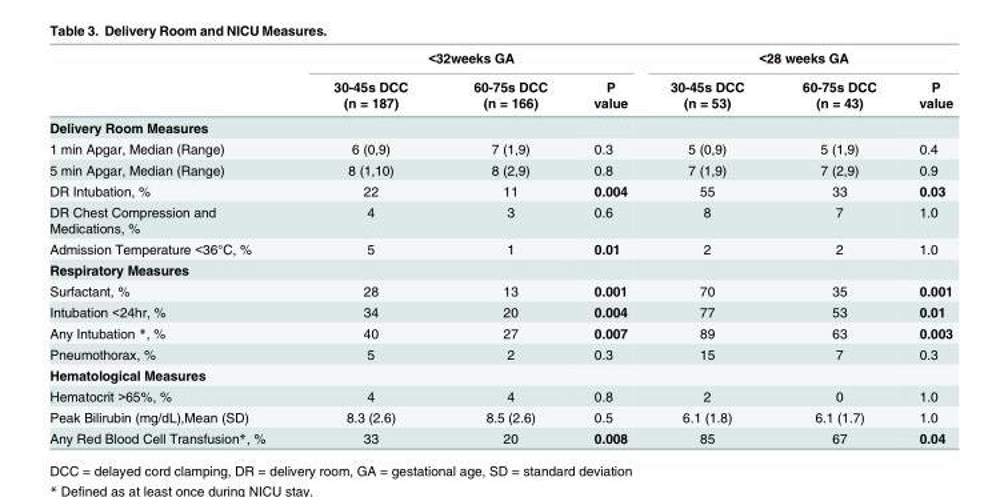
<table><thead><tr><td rowspan="2"></td><td colspan="3">&lt;32weeks GA</td><td colspan="3">&lt;28 weeks GA</td></tr><tr><td>30-45s DCC (n = 187)</td><td>60-75s DCC (n = 166)</td><td>P value</td><td>30-45s DCC (n = 53)</td><td>60-75s DCC (n = 43)</td><td>P value</td></tr></thead><tbody><tr><td colspan="7">Delivery Room Measures</td></tr><tr><td>1 min Apgar, Median (Range)</td><td>6 (0,9)</td><td>7 (1,9)</td><td>0.3</td><td>5 (0,9)</td><td>5 (1,9)</td><td>0.4</td></tr><tr><td>5 min Apgar, Median (Range)</td><td>8 (1,10)</td><td>8 (2,9)</td><td>0.8</td><td>7 (1,9)</td><td>7 (2,9)</td><td>0.9</td></tr><tr><td>DR Intubation, %</td><td>22</td><td>11</td><td>0.004</td><td>55</td><td>33</td><td>0.03</td></tr><tr><td>DR Chest Compression and Medications, %</td><td>4</td><td>3</td><td>0.6</td><td>8</td><td>7</td><td>1.0</td></tr><tr><td>Admission Temperature &lt;36°C, %</td><td>5</td><td>1</td><td>0.01</td><td>2</td><td>2</td><td>1.0</td></tr><tr><td colspan="7">Respiratory Measures</td></tr><tr><td>Surfactant, %</td><td>28</td><td>13</td><td>0.001</td><td>70</td><td>35</td><td>0.001</td></tr><tr><td>Intubation &lt;24hr, %</td><td>34</td><td>20</td><td>0.004</td><td>77</td><td>53</td><td>0.01</td></tr><tr><td>Any Intubation *, %</td><td>40</td><td>27</td><td>0.007</td><td>89</td><td>63</td><td>0.003</td></tr><tr><td>Pneumothorax, %</td><td>5</td><td>2</td><td>0.3</td><td>15</td><td>7</td><td>0.3</td></tr><tr><td colspan="7">Hematological Measures</td></tr><tr><td>Hematocrit &gt;65%, %</td><td>4</td><td>4</td><td>0.8</td><td>2</td><td>0</td><td>1.0</td></tr><tr><td>Peak Bilirubin (mg/dL),Mean (SD)</td><td>8.3 (2.6)</td><td>8.5 (2.6)</td><td>0.5</td><td>6.1 (1.8)</td><td>6.1 (1.7)</td><td>1.0</td></tr><tr><td>Any Red Blood Cell Transfusion*, %</td><td>33</td><td>20</td><td>0.008</td><td>85</td><td>67</td><td>0.04</td></tr></tbody></table>